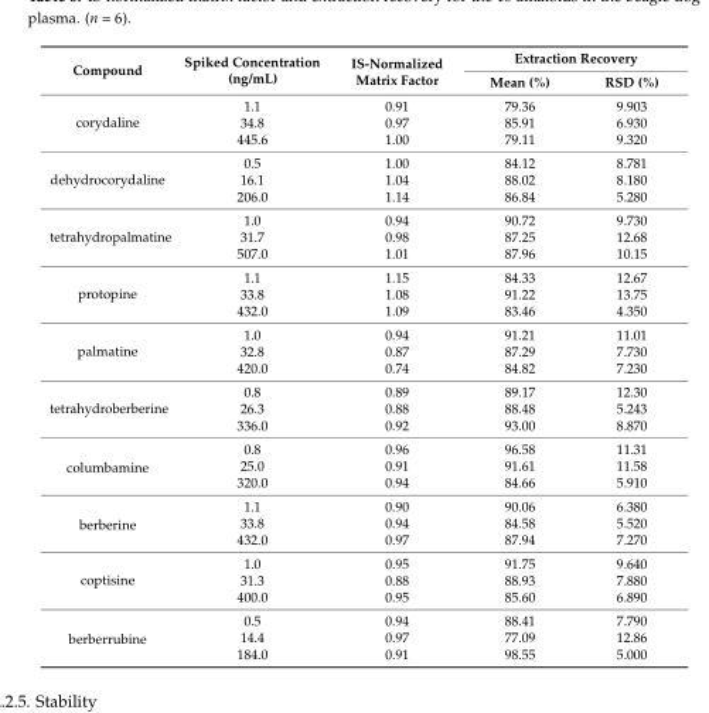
<table><thead><tr><td rowspan="2">Compound</td><td rowspan="2">Spiked Concentration (ng/mL)</td><td rowspan="2">IS-Normalized Matrix Factor</td><td colspan="2">Extraction Recovery</td></tr><tr><td>Mean (%)</td><td>RSD (%)</td></tr></thead><tbody><tr><td rowspan="3">corydaline</td><td>1.1</td><td>0.91</td><td>79.36</td><td>9.903</td></tr><tr><td>34.8</td><td>0.97</td><td>85.91</td><td>6.930</td></tr><tr><td>445.6</td><td>1.00</td><td>79.11</td><td>9.320</td></tr><tr><td rowspan="3">dehydrocorydaline</td><td>0.5</td><td>1.00</td><td>84.12</td><td>8.781</td></tr><tr><td>16.1</td><td>1.04</td><td>88.02</td><td>8.180</td></tr><tr><td>206.0</td><td>1.14</td><td>86.84</td><td>5.280</td></tr><tr><td rowspan="3">tetrahydropalmatine</td><td>1.0</td><td>0.94</td><td>90.72</td><td>9.730</td></tr><tr><td>31.7</td><td>0.98</td><td>87.25</td><td>12.68</td></tr><tr><td>507.0</td><td>1.01</td><td>87.96</td><td>10.15</td></tr><tr><td rowspan="3">protopine</td><td>1.1</td><td>1.15</td><td>84.33</td><td>12.67</td></tr><tr><td>33.8</td><td>1.08</td><td>91.22</td><td>13.75</td></tr><tr><td>432.0</td><td>1.09</td><td>83.46</td><td>4.350</td></tr><tr><td rowspan="3">palmatine</td><td>1.0</td><td>0.94</td><td>91.21</td><td>11.01</td></tr><tr><td>32.8</td><td>0.87</td><td>87.29</td><td>7.730</td></tr><tr><td>420.0</td><td>0.74</td><td>84.82</td><td>7.230</td></tr><tr><td rowspan="3">tetrahydroberberine</td><td>0.8</td><td>0.89</td><td>89.17</td><td>12.30</td></tr><tr><td>26.3</td><td>0.88</td><td>88.48</td><td>5.243</td></tr><tr><td>336.0</td><td>0.92</td><td>93.00</td><td>8.870</td></tr><tr><td rowspan="3">columbamine</td><td>0.8</td><td>0.96</td><td>96.58</td><td>11.31</td></tr><tr><td>25.0</td><td>0.91</td><td>91.61</td><td>11.58</td></tr><tr><td>320.0</td><td>0.94</td><td>84.66</td><td>5.910</td></tr><tr><td rowspan="3">berberine</td><td>1.1</td><td>0.90</td><td>90.06</td><td>6.380</td></tr><tr><td>33.8</td><td>0.94</td><td>84.58</td><td>5.520</td></tr><tr><td>432.0</td><td>0.97</td><td>87.94</td><td>7.270</td></tr><tr><td rowspan="3">coptisine</td><td>1.0</td><td>0.95</td><td>91.75</td><td>9.640</td></tr><tr><td>31.3</td><td>0.88</td><td>88.93</td><td>7.880</td></tr><tr><td>400.0</td><td>0.95</td><td>85.60</td><td>6.890</td></tr><tr><td rowspan="3">berberrubine</td><td>0.5</td><td>0.94</td><td>88.41</td><td>7.790</td></tr><tr><td>14.4</td><td>0.97</td><td>77.09</td><td>12.86</td></tr><tr><td>184.0</td><td>0.91</td><td>98.55</td><td>5.000</td></tr></tbody></table>